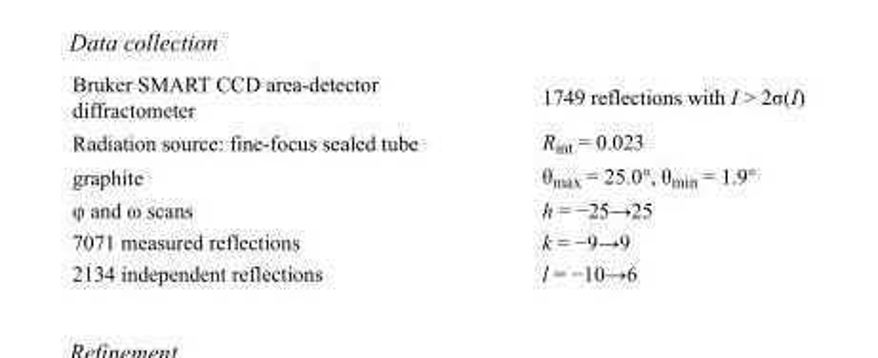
<table><tbody><tr><td>Bruker SMART CCD area-detector diffractometer</td><td>1749 reflections with I &gt; 2σ(I)</td></tr><tr><td>Radiation source: fine-focus sealed tube</td><td>R<sub>int</sub> = 0.023</td></tr><tr><td>graphite</td><td>θ<sub>max</sub> = 25.0°, θ<sub>min</sub> = 1.9°</td></tr><tr><td>φ and ω scans</td><td>h = −25→25</td></tr><tr><td>7071 measured reflections</td><td>k = −9→9</td></tr><tr><td>2134 independent reflections</td><td>l = −10→6</td></tr></tbody></table>